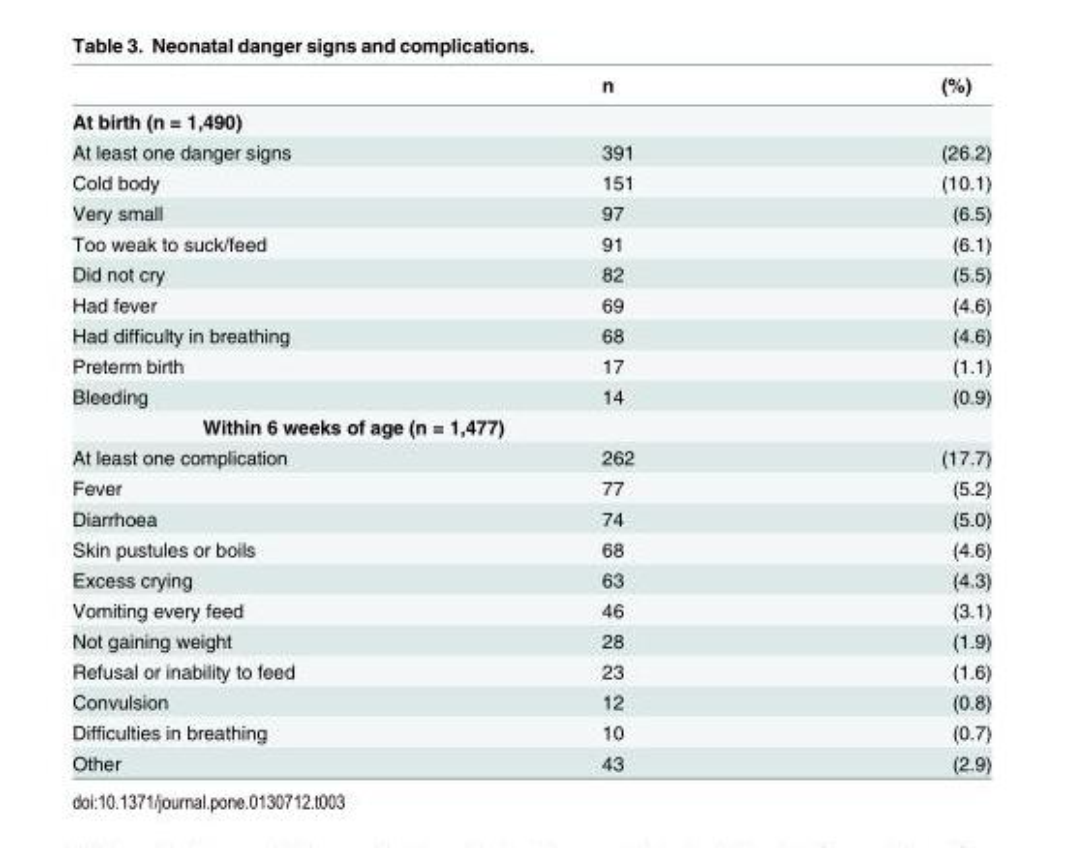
<table><thead><tr><td></td><td>n</td><td>(%)</td></tr></thead><tbody><tr><td colspan="3">At birth (n = 1,490)</td></tr><tr><td>At least one danger signs</td><td>391</td><td>(26.2)</td></tr><tr><td>Cold body</td><td>151</td><td>(10.1)</td></tr><tr><td>Very small</td><td>97</td><td>(6.5)</td></tr><tr><td>Too weak to suck/feed</td><td>91</td><td>(6.1)</td></tr><tr><td>Did not cry</td><td>82</td><td>(5.5)</td></tr><tr><td>Had fever</td><td>69</td><td>(4.6)</td></tr><tr><td>Had difficulty in breathing</td><td>68</td><td>(4.6)</td></tr><tr><td>Preterm birth</td><td>17</td><td>(1.1)</td></tr><tr><td>Bleeding</td><td>14</td><td>(0.9)</td></tr><tr><td colspan="3">Within 6 weeks of age (n = 1,477)</td></tr><tr><td>At least one complication</td><td>262</td><td>(17.7)</td></tr><tr><td>Fever</td><td>77</td><td>(5.2)</td></tr><tr><td>Diarrhoea</td><td>74</td><td>(5.0)</td></tr><tr><td>Skin pustules or boils</td><td>68</td><td>(4.6)</td></tr><tr><td>Excess crying</td><td>63</td><td>(4.3)</td></tr><tr><td>Vomiting every feed</td><td>46</td><td>(3.1)</td></tr><tr><td>Not gaining weight</td><td>28</td><td>(1.9)</td></tr><tr><td>Refusal or inability to feed</td><td>23</td><td>(1.6)</td></tr><tr><td>Convulsion</td><td>12</td><td>(0.8)</td></tr><tr><td>Difficulties in breathing</td><td>10</td><td>(0.7)</td></tr><tr><td>Other</td><td>43</td><td>(2.9)</td></tr></tbody></table>